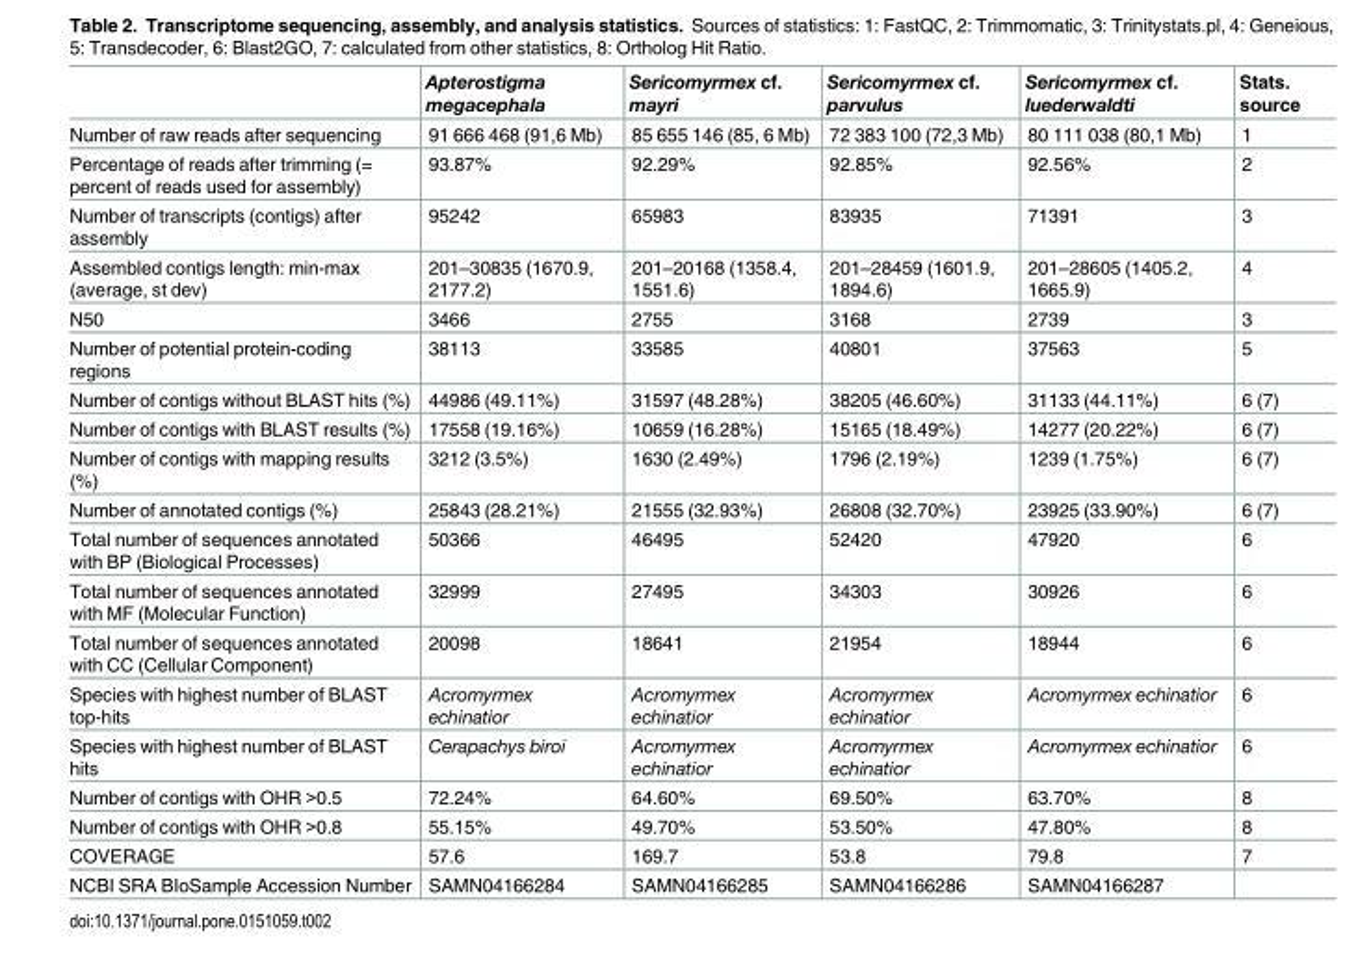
<table><thead><tr><td></td><td>Apterostigma megacephala</td><td>Sericomyrmex cf. mayri</td><td>Sericomyrmex cf. parvulus</td><td>Sericomyrmex cf. luederwaldti</td><td>Stats. source</td></tr></thead><tbody><tr><td>Number of raw reads after sequencing</td><td>91 666 468 (91,6 Mb)</td><td>85 655 146 (85, 6 Mb)</td><td>72 383 100 (72,3 Mb)</td><td>80 111 038 (80,1 Mb)</td><td>1</td></tr><tr><td>Percentage of reads after trimming (= percent of reads used for assembly)</td><td>93.87%</td><td>92.29%</td><td>92.85%</td><td>92.56%</td><td>2</td></tr><tr><td>Number of transcripts (contigs) after assembly</td><td>95242</td><td>65983</td><td>83935</td><td>71391</td><td>3</td></tr><tr><td>Assembled contigs length: min-max (average, st dev)</td><td>201–30835 (1670.9, 2177.2)</td><td>201–20168 (1358.4, 1551.6)</td><td>201–28459 (1601.9, 1894.6)</td><td>201–28605 (1405.2, 1665.9)</td><td>4</td></tr><tr><td>N50</td><td>3466</td><td>2755</td><td>3168</td><td>2739</td><td>3</td></tr><tr><td>Number of potential protein-coding regions</td><td>38113</td><td>33585</td><td>40801</td><td>37563</td><td>5</td></tr><tr><td>Number of contigs without BLAST hits (%)</td><td>44986 (49.11%)</td><td>31597 (48.28%)</td><td>38205 (46.60%)</td><td>31133 (44.11%)</td><td>6 (7)</td></tr><tr><td>Number of contigs with BLAST results (%)</td><td>17558 (19.16%)</td><td>10659 (16.28%)</td><td>15165 (18.49%)</td><td>14277 (20.22%)</td><td>6 (7)</td></tr><tr><td>Number of contigs with mapping results (%)</td><td>3212 (3.5%)</td><td>1630 (2.49%)</td><td>1796 (2.19%)</td><td>1239 (1.75%)</td><td>6 (7)</td></tr><tr><td>Number of annotated contigs (%)</td><td>25843 (28.21%)</td><td>21555 (32.93%)</td><td>26808 (32.70%)</td><td>23925 (33.90%)</td><td>6 (7)</td></tr><tr><td>Total number of sequences annotated with BP (Biological Processes)</td><td>50366</td><td>46495</td><td>52420</td><td>47920</td><td>6</td></tr><tr><td>Total number of sequences annotated with MF (Molecular Function)</td><td>32999</td><td>27495</td><td>34303</td><td>30926</td><td>6</td></tr><tr><td>Total number of sequences annotated with CC (Cellular Component)</td><td>20098</td><td>18641</td><td>21954</td><td>18944</td><td>6</td></tr><tr><td>Species with highest number of BLAST top-hits</td><td>Acromyrmex echinatior</td><td>Acromyrmex echinatior</td><td>Acromyrmex echinatior</td><td>Acromyrmex echinatior</td><td>6</td></tr><tr><td>Species with highest number of BLAST hits</td><td>Cerapachys biroi</td><td>Acromyrmex echinatior</td><td>Acromyrmex echinatior</td><td>Acromyrmex echinatior</td><td>6</td></tr><tr><td>Number of contigs with OHR &gt;0.5</td><td>72.24%</td><td>64.60%</td><td>69.50%</td><td>63.70%</td><td>8</td></tr><tr><td>Number of contigs with OHR &gt;0.8</td><td>55.15%</td><td>49.70%</td><td>53.50%</td><td>47.80%</td><td>8</td></tr><tr><td>COVERAGE</td><td>57.6</td><td>169.7</td><td>53.8</td><td>79.8</td><td>7</td></tr><tr><td>NCBI SRA BIoSample Accession Number</td><td>SAMN04166284</td><td>SAMN04166285</td><td>SAMN04166286</td><td>SAMN04166287</td><td></td></tr></tbody></table>